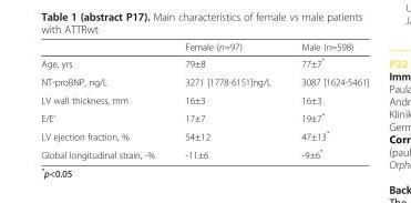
<table><thead><tr><td></td><td>Female (n=97)</td><td>Male (n=598)</td></tr></thead><tbody><tr><td>Age, yrs</td><td>79±8</td><td>77±7*</td></tr><tr><td>NT-proBNP, ng/L</td><td>3271 [1778-6151]ng/L</td><td>3087 [1624-5461]</td></tr><tr><td>LV wall thickness, mm</td><td>16±3</td><td>16±3</td></tr><tr><td>E/E’</td><td>17±7</td><td>19±7*</td></tr><tr><td>LV ejection fraction, %</td><td>54±12</td><td>47±13*</td></tr><tr><td>Global longitudinal strain, -%</td><td>-11±6</td><td>-9±6*</td></tr></tbody></table>